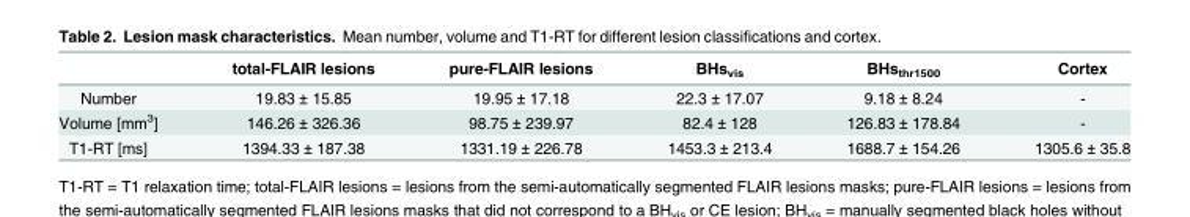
<table><thead><tr><td></td><td>total-FLAIR lesions</td><td>pure-FLAIR lesions</td><td>BHs<sub>vis</sub></td><td>BHs<sub>thr1500</sub></td><td>Cortex</td></tr></thead><tbody><tr><td>Number</td><td>19.83 ± 15.85</td><td>19.95 ± 17.18</td><td>22.3 ± 17.07</td><td>9.18 ± 8.24</td><td>-</td></tr><tr><td>Volume [mm<sup>3</sup>]</td><td>146.26 ± 326.36</td><td>98.75 ± 239.97</td><td>82.4 ± 128</td><td>126.83 ± 178.84</td><td>-</td></tr><tr><td>T1-RT [ms]</td><td>1394.33 ± 187.38</td><td>1331.19 ± 226.78</td><td>1453.3 ± 213.4</td><td>1688.7 ± 154.26</td><td>1305.6 ± 35.8</td></tr></tbody></table>